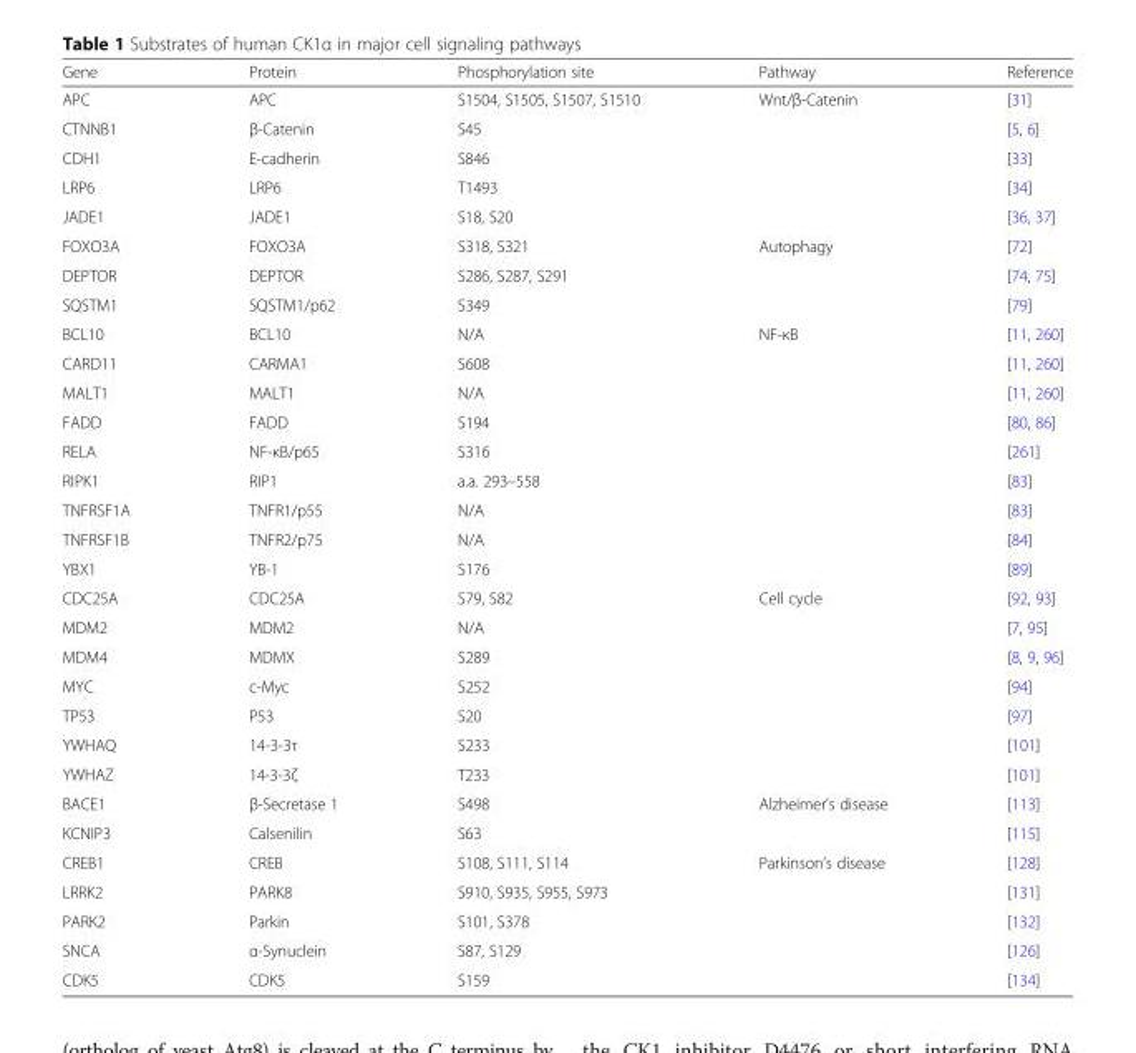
<table><thead><tr><td>Gene</td><td>Protein</td><td>Phosphorylation site</td><td>Pathway</td><td>Reference</td></tr></thead><tbody><tr><td>APC</td><td>APC</td><td>S1504, S1505, S1507, S1510</td><td rowspan="5">Wnt/β-Catenin</td><td>[31]</td></tr><tr><td>CTNNB1</td><td>β-Catenin</td><td>S45</td><td>[5, 6]</td></tr><tr><td>CDH1</td><td>E-cadherin</td><td>S846</td><td>[33]</td></tr><tr><td>LRP6</td><td>LRP6</td><td>T1493</td><td>[34]</td></tr><tr><td>JADE1</td><td>JADE1</td><td>S18, S20</td><td>[36, 37]</td></tr><tr><td>FOXO3A</td><td>FOXO3A</td><td>S318, S321</td><td rowspan="3">Autophagy</td><td>[72]</td></tr><tr><td>DEPTOR</td><td>DEPTOR</td><td>S286, S287, S291</td><td>[74, 75]</td></tr><tr><td>SQSTM1</td><td>SQSTM1/p62</td><td>S349</td><td>[79]</td></tr><tr><td>BCL10</td><td>BCL10</td><td>N/A</td><td rowspan="9">NF-κB</td><td>[11, 260]</td></tr><tr><td>CARD11</td><td>CARMA1</td><td>S608</td><td>[11, 260]</td></tr><tr><td>MALT1</td><td>MALT1</td><td>N/A</td><td>[11, 260]</td></tr><tr><td>FADD</td><td>FADD</td><td>S194</td><td>[80, 86]</td></tr><tr><td>RELA</td><td>NF-κB/p65</td><td>S316</td><td>[261]</td></tr><tr><td>RIPK1</td><td>RIP1</td><td>a.a. 293–558</td><td>[83]</td></tr><tr><td>TNFRSF1A</td><td>TNFR1/p55</td><td>N/A</td><td>[83]</td></tr><tr><td>TNFRSF1B</td><td>TNFR2/p75</td><td>N/A</td><td>[84]</td></tr><tr><td>YBX1</td><td>YB-1</td><td>S176</td><td>[89]</td></tr><tr><td>CDC25A</td><td>CDC25A</td><td>S79, S82</td><td rowspan="7">Cell cycle</td><td>[92, 93]</td></tr><tr><td>MDM2</td><td>MDM2</td><td>N/A</td><td>[7, 95]</td></tr><tr><td>MDM4</td><td>MDMX</td><td>S289</td><td>[8, 9, 96]</td></tr><tr><td>MYC</td><td>c-Myc</td><td>S252</td><td>[94]</td></tr><tr><td>TP53</td><td>P53</td><td>S20</td><td>[97]</td></tr><tr><td>YWHAQ</td><td>14-3-3τ</td><td>S233</td><td>[101]</td></tr><tr><td>YWHAZ</td><td>14-3-3ζ</td><td>T233</td><td>[101]</td></tr><tr><td>BACE1</td><td>β-Secretase 1</td><td>S498</td><td rowspan="2">Alzheimer’s disease</td><td>[113]</td></tr><tr><td>KCNIP3</td><td>Calsenilin</td><td>S63</td><td>[115]</td></tr><tr><td>CREB1</td><td>CREB</td><td>S108, S111, S114</td><td rowspan="5">Parkinson’s disease</td><td>[128]</td></tr><tr><td>LRRK2</td><td>PARK8</td><td>S910, S935, S955, S973</td><td>[131]</td></tr><tr><td>PARK2</td><td>Parkin</td><td>S101, S378</td><td>[132]</td></tr><tr><td>SNCA</td><td>α-Synuclein</td><td>S87, S129</td><td>[126]</td></tr><tr><td>CDK5</td><td>CDK5</td><td>S159</td><td>[134]</td></tr></tbody></table>